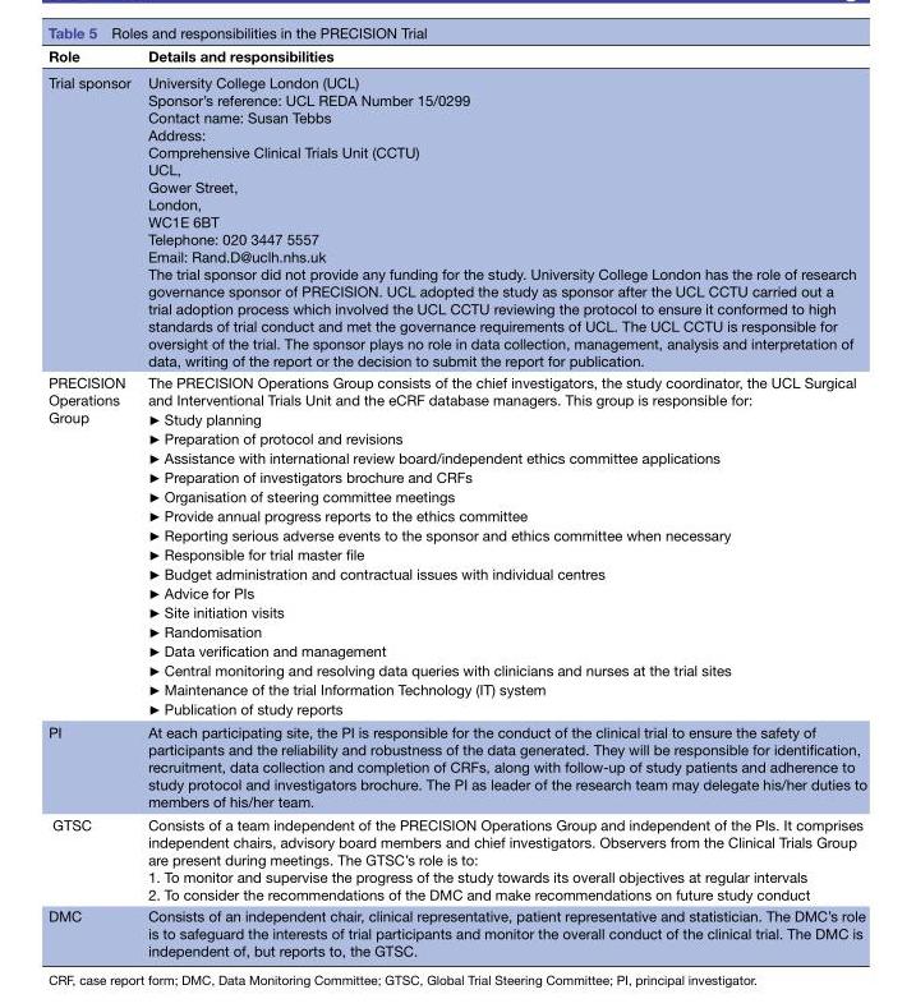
<table><thead><tr><td>Role</td><td>Details and responsibilities</td></tr></thead><tbody><tr><td>Trial sponsor</td><td>University College London (UCL) Sponsor’s reference: UCL REDA Number 15/0299 Contact name: Susan Tebbs Address: Comprehensive Clinical Trials Unit (CCTU) UCL, Gower Street, London, WC1E 6BT Telephone: 020 3447 5557 Email: Rand.D@uclh.nhs.uk The trial sponsor did not provide any funding for the study. University College London has the role of research governance sponsor of PRECISION. UCL adopted the study as sponsor after the UCL CCTU carried out a trial adoption process which involved the UCL CCTU reviewing the protocol to ensure it conformed to high standards of trial conduct and met the governance requirements of UCL. The UCL CCTU is responsible for oversight of the trial. The sponsor plays no role in data collection, management, analysis and interpretation of data, writing of the report or the decision to submit the report for publication.</td></tr><tr><td>PRECISION Operations Group</td><td>The PRECISION Operations Group consists of the chief investigators, the study coordinator, the UCL Surgical and Interventional Trials Unit and the eCRF database managers. This group is responsible for: ► Study planning ► Preparation of protocol and revisions ► Assistance with international review board/independent ethics committee applications ► Preparation of investigators brochure and CRFs ► Organisation of steering committee meetings ► Provide annual progress reports to the ethics committee ► Reporting serious adverse events to the sponsor and ethics committee when necessary ► Responsible for trial master file ► Budget administration and contractual issues with individual centres ► Advice for PIs ► Site initiation visits ► Randomisation ► Data verification and management ► Central monitoring and resolving data queries with clinicians and nurses at the trial sites ► Maintenance of the trial Information Technology (IT) system ► Publication of study reports</td></tr><tr><td>PI</td><td>At each participating site, the PI is responsible for the conduct of the clinical trial to ensure the safety of participants and the reliability and robustness of the data generated. They will be responsible for identification, recruitment, data collection and completion of CRFs, along with follow-up of study patients and adherence to study protocol and investigators brochure. The PI as leader of the research team may delegate his/her duties to members of his/her team.</td></tr><tr><td>GTSC</td><td>Consists of a team independent of the PRECISION Operations Group and independent of the PIs. It comprises independent chairs, advisory board members and chief investigators. Observers from the Clinical Trials Group are present during meetings. The GTSC’s role is to: 1. To monitor and supervise the progress of the study towards its overall objectives at regular intervals 2. To consider the recommendations of the DMC and make recommendations on future study conduct</td></tr><tr><td>DMC</td><td>Consists of an independent chair, clinical representative, patient representative and statistician. The DMC’s role is to safeguard the interests of trial participants and monitor the overall conduct of the clinical trial. The DMC is independent of, but reports to, the GTSC.</td></tr></tbody></table>